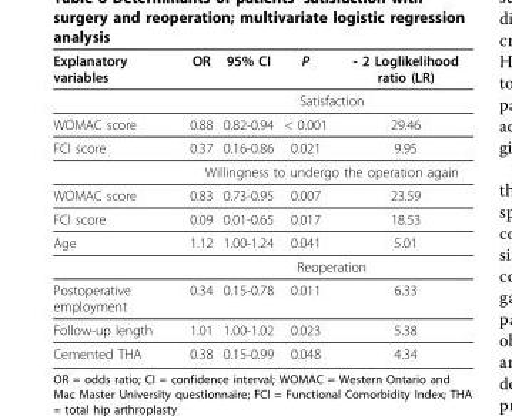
<table><thead><tr><td>Explanatory variables</td><td>OR</td><td>95% CI</td><td>P</td><td>- 2 Loglikelihood ratio (LR)</td></tr></thead><tbody><tr><td></td><td colspan="4">Satisfaction</td></tr><tr><td>WOMAC score</td><td>0.88</td><td>0.82-0.94</td><td>&lt; 0.001</td><td>29.46</td></tr><tr><td rowspan="2">FCI score</td><td>0.37</td><td>0.16-0.86</td><td>0.021</td><td>9.95</td></tr><tr><td colspan="4">Willingness to undergo the operation again</td></tr><tr><td>WOMAC score</td><td>0.83</td><td>0.73-0.95</td><td>0.007</td><td>23.59</td></tr><tr><td>FCI score</td><td>0.09</td><td>0.01-0.65</td><td>0.017</td><td>18.53</td></tr><tr><td rowspan="2">Age</td><td>1.12</td><td>1.00-1.24</td><td>0.041</td><td>5.01</td></tr><tr><td colspan="4">Reoperation</td></tr><tr><td>Postoperative employment</td><td>0.34</td><td>0.15-0.78</td><td>0.011</td><td>6.33</td></tr><tr><td>Follow-up length</td><td>1.01</td><td>1.00-1.02</td><td>0.023</td><td>5.38</td></tr><tr><td>Cemented THA</td><td>0.38</td><td>0.15-0.99</td><td>0.048</td><td>4.34</td></tr></tbody></table>